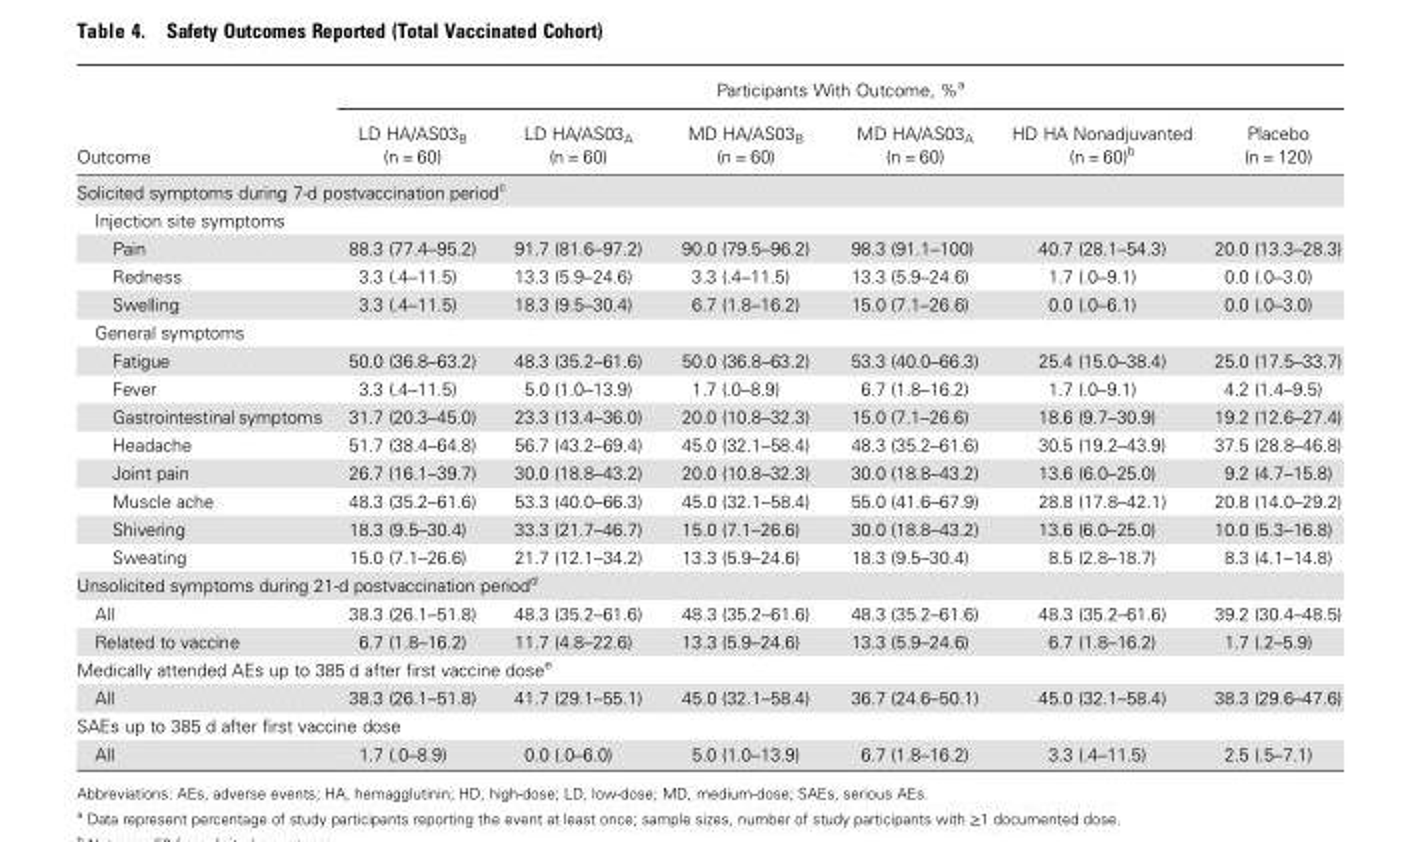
<table><thead><tr><td rowspan="2">Outcome</td><td colspan="6">Participants With Outcome, %<sup>a</sup></td></tr><tr><td>LD HA/AS03<sub>B</sub> (n = 60)</td><td>LD HA/AS03<sub>A</sub> (n = 60)</td><td>MD HA/AS03<sub>B</sub> (n = 60)</td><td>MD HA/AS03<sub>A</sub> (n = 60)</td><td>HD HA Nonadjuvanted (n = 60)<sup>b</sup></td><td>Placebo (n = 120)</td></tr></thead><tbody><tr><td colspan="7">Solicited symptoms during 7-d postvaccination period<sup>c</sup></td></tr><tr><td colspan="7">Injection site symptoms</td></tr><tr><td>Pain</td><td>88.3 (77.4–95.2)</td><td>91.7 (81.6–97.2)</td><td>90.0 (79.5–96.2)</td><td>98.3 (91.1–100)</td><td>40.7 (28.1–54.3)</td><td>20.0 (13.3–28.3)</td></tr><tr><td>Redness</td><td>3.3 (.4–11.5)</td><td>13.3 (5.9–24.6)</td><td>3.3 (.4–11.5)</td><td>13.3 (5.9–24.6)</td><td>1.7 (.0–9.1)</td><td>0.0 (.0–3.0)</td></tr><tr><td>Swelling</td><td>3.3 (.4–11.5)</td><td>18.3 (9.5–30.4)</td><td>6.7 (1.8–16.2)</td><td>15.0 (7.1–26.6)</td><td>0.0 (.0–6.1)</td><td>0.0 (.0–3.0)</td></tr><tr><td colspan="7">General symptoms</td></tr><tr><td>Fatigue</td><td>50.0 (36.8–63.2)</td><td>48.3 (35.2–61.6)</td><td>50.0 (36.8–63.2)</td><td>53.3 (40.0–66.3)</td><td>25.4 (15.0–38.4)</td><td>25.0 (17.5–33.7)</td></tr><tr><td>Fever</td><td>3.3 (.4–11.5)</td><td>5.0 (1.0–13.9)</td><td>1.7 (.0–8.9)</td><td>6.7 (1.8–16.2)</td><td>1.7 (.0–9.1)</td><td>4.2 (1.4–9.5)</td></tr><tr><td>Gastrointestinal symptoms</td><td>31.7 (20.3–45.0)</td><td>23.3 (13.4–36.0)</td><td>20.0 (10.8–32.3)</td><td>15.0 (7.1–26.6)</td><td>18.6 (9.7–30.9)</td><td>19.2 (12.6–27.4)</td></tr><tr><td>Headache</td><td>51.7 (38.4–64.8)</td><td>56.7 (43.2–69.4)</td><td>45.0 (32.1–58.4)</td><td>48.3 (35.2–61.6)</td><td>30.5 (19.2–43.9)</td><td>37.5 (28.8–46.8)</td></tr><tr><td>Joint pain</td><td>26.7 (16.1–39.7)</td><td>30.0 (18.8–43.2)</td><td>20.0 (10.8–32.3)</td><td>30.0 (18.8–43.2)</td><td>13.6 (6.0–25.0)</td><td>9.2 (4.7–15.8)</td></tr><tr><td>Muscle ache</td><td>48.3 (35.2–61.6)</td><td>53.3 (40.0–66.3)</td><td>45.0 (32.1–58.4)</td><td>55.0 (41.6–67.9)</td><td>28.8 (17.8–42.1)</td><td>20.8 (14.0–29.2)</td></tr><tr><td>Shivering</td><td>18.3 (9.5–30.4)</td><td>33.3 (21.7–46.7)</td><td>15.0 (7.1–26.6)</td><td>30.0 (18.8–43.2)</td><td>13.6 (6.0–25.0)</td><td>10.0 (5.3–16.8)</td></tr><tr><td>Sweating</td><td>15.0 (7.1–26.6)</td><td>21.7 (12.1–34.2)</td><td>13.3 (5.9–24.6)</td><td>18.3 (9.5–30.4)</td><td>8.5 (2.8–18.7)</td><td>8.3 (4.1–14.8)</td></tr><tr><td colspan="7">Unsolicited symptoms during 21-d postvaccination period<sup>d</sup></td></tr><tr><td>All</td><td>38.3 (26.1–51.8)</td><td>48.3 (35.2–61.6)</td><td>48.3 (35.2–61.6)</td><td>48.3 (35.2–61.6)</td><td>48.3 (35.2–61.6)</td><td>39.2 (30.4–48.5)</td></tr><tr><td>Related to vaccine</td><td>6.7 (1.8–16.2)</td><td>11.7 (4.8–22.6)</td><td>13.3 (5.9–24.6)</td><td>13.3 (5.9–24.6)</td><td>6.7 (1.8–16.2)</td><td>1.7 (.2–5.9)</td></tr><tr><td colspan="7">Medically attended AEs up to 385 d after first vaccine dose<sup>e</sup></td></tr><tr><td>All</td><td>38.3 (26.1–51.8)</td><td>41.7 (29.1–55.1)</td><td>45.0 (32.1–58.4)</td><td>36.7 (24.6–50.1)</td><td>45.0 (32.1–58.4)</td><td>38.3 (29.6–47.6)</td></tr><tr><td colspan="7">SAEs up to 385 d after first vaccine dose</td></tr><tr><td>All</td><td>1.7 (.0–8.9)</td><td>0.0 (.0–6.0)</td><td>5.0 (1.0–13.9)</td><td>6.7 (1.8–16.2)</td><td>3.3 (.4–11.5)</td><td>2.5 (.5–7.1)</td></tr></tbody></table>